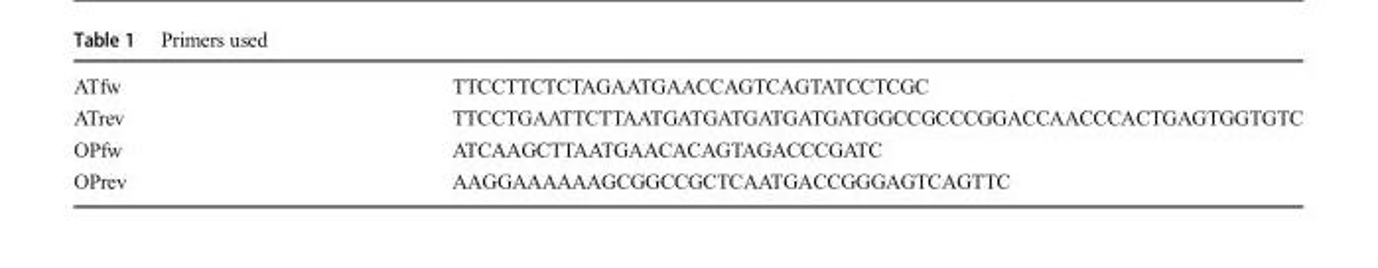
<table><tbody><tr><td>ATfw</td><td>TTCCTTCTCTAGAATGAACCAGTCAGTATCCTCGC</td></tr><tr><td>ATrev</td><td>TTCCTGAATTCTTAATGATGATGATGATGATGGCCGCCCGGACCAACCCACTGAGTGGTGTC</td></tr><tr><td>OPfw</td><td>ATCAAGCTTAATGAACACAGTAGACCCGATC</td></tr><tr><td>OPrev</td><td>AAGGAAAAAAGCGGCCGCTCAATGACCGGGAGTCAGTTC</td></tr></tbody></table>